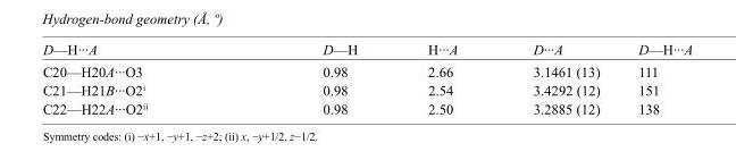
<table><tbody><tr><td>D—H···A</td><td>D—H</td><td>H···A</td><td>D···A</td><td>D—H···A</td></tr><tr><td>C20—H20A···O3</td><td>0.98</td><td>2.66</td><td>3.1461 (13)</td><td>111</td></tr><tr><td>C21—H21B···O2<sup>i</sup></td><td>0.98</td><td>2.54</td><td>3.4292 (12)</td><td>151</td></tr><tr><td>C22—H22A···O2<sup>ii</sup></td><td>0.98</td><td>2.50</td><td>3.2885 (12)</td><td>138</td></tr></tbody></table>